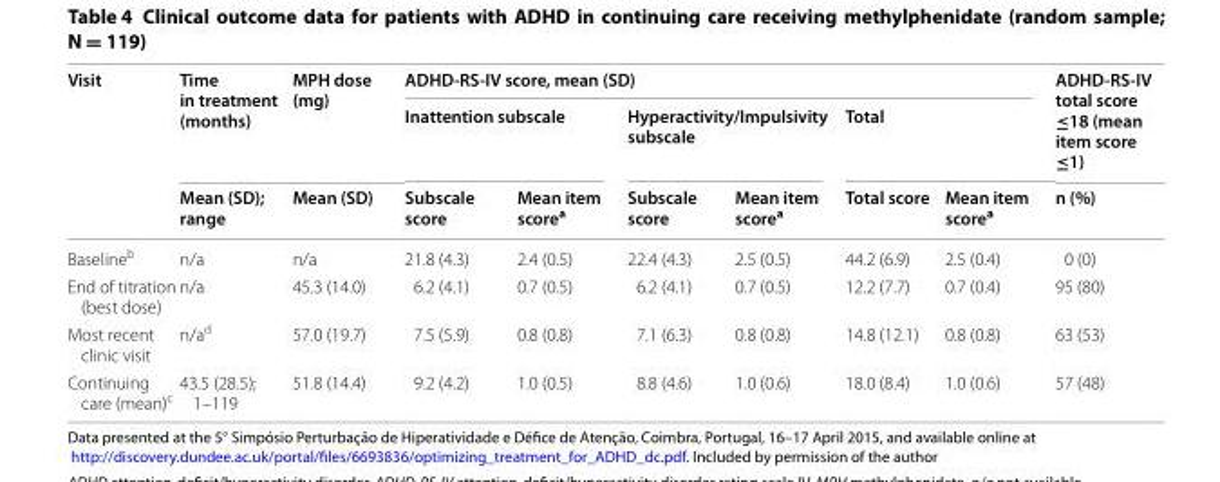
<table><thead><tr><td rowspan="3">Visit</td><td rowspan="3">Time in treatment (months) Mean (SD); range</td><td rowspan="3">MPH dose (mg) Mean (SD)</td><td colspan="6">ADHD‑RS‑IV score, mean (SD)</td><td rowspan="3">ADHD‑RS‑IV total score ≤18 (mean item score ≤1) n (%)</td></tr><tr><td colspan="2">Inattention subscale</td><td colspan="2">Hyperactivity/Impulsivity subscale</td><td colspan="2">Total</td></tr><tr><td>Subscale score</td><td>Mean item score<sup>a</sup></td><td>Subscale score</td><td>Mean item score<sup>a</sup></td><td>Total score</td><td>Mean item score<sup>a</sup></td></tr></thead><tbody><tr><td>Baseline<sup>b</sup></td><td>n/a</td><td>n/a</td><td>21.8 (4.3)</td><td>2.4 (0.5)</td><td>22.4 (4.3)</td><td>2.5 (0.5)</td><td>44.2 (6.9)</td><td>2.5 (0.4)</td><td>0 (0)</td></tr><tr><td>End of titration (best dose)</td><td>n/a</td><td>45.3 (14.0)</td><td>6.2 (4.1)</td><td>0.7 (0.5)</td><td>6.2 (4.1)</td><td>0.7 (0.5)</td><td>12.2 (7.7)</td><td>0.7 (0.4)</td><td>95 (80)</td></tr><tr><td>Most recent clinic visit</td><td>n/a<sup>d</sup></td><td>57.0 (19.7)</td><td>7.5 (5.9)</td><td>0.8 (0.8)</td><td>7.1 (6.3)</td><td>0.8 (0.8)</td><td>14.8 (12.1)</td><td>0.8 (0.8)</td><td>63 (53)</td></tr><tr><td>Continuing care (mean)<sup>c</sup></td><td>43.5 (28.5); 1–119</td><td>51.8 (14.4)</td><td>9.2 (4.2)</td><td>1.0 (0.5)</td><td>8.8 (4.6)</td><td>1.0 (0.6)</td><td>18.0 (8.4)</td><td>1.0 (0.6)</td><td>57 (48)</td></tr></tbody></table>